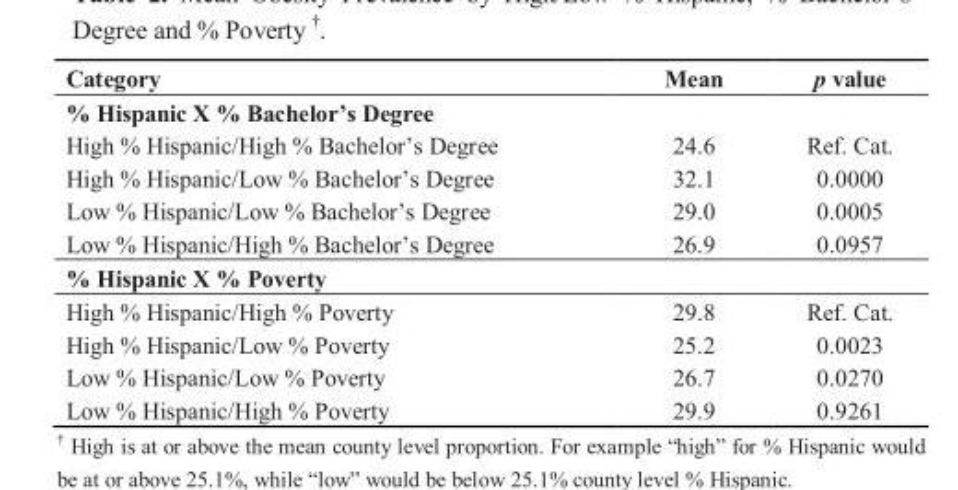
<table><thead><tr><td>Category</td><td>Mean</td><td>p value</td></tr></thead><tbody><tr><td colspan="3">% Hispanic X % Bachelor’s Degree</td></tr><tr><td>High % Hispanic/High % Bachelor’s Degree</td><td>24.6</td><td>Ref. Cat.</td></tr><tr><td>High % Hispanic/Low % Bachelor’s Degree</td><td>32.1</td><td>0.0000</td></tr><tr><td>Low % Hispanic/Low % Bachelor’s Degree</td><td>29.0</td><td>0.0005</td></tr><tr><td>Low % Hispanic/High % Bachelor’s Degree</td><td>26.9</td><td>0.0957</td></tr><tr><td colspan="3">% Hispanic X % Poverty</td></tr><tr><td>High % Hispanic/High % Poverty</td><td>29.8</td><td>Ref. Cat.</td></tr><tr><td>High % Hispanic/Low % Poverty</td><td>25.2</td><td>0.0023</td></tr><tr><td>Low % Hispanic/Low % Poverty</td><td>26.7</td><td>0.0270</td></tr><tr><td>Low % Hispanic/High % Poverty</td><td>29.9</td><td>0.9261</td></tr></tbody></table>